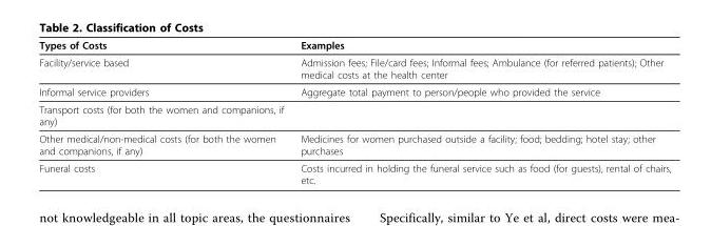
<table><thead><tr><td>Types of Costs</td><td>Examples</td></tr></thead><tbody><tr><td>Facility/service based</td><td>Admission fees; File/card fees; Informal fees; Ambulance (for referred patients); Other medical costs at the health center</td></tr><tr><td>Informal service providers</td><td>Aggregate total payment to person/people who provided the service</td></tr><tr><td colspan="2">Transport costs (for both the women and companions, if any)</td></tr><tr><td>Other medical/non-medical costs (for both the women and companions, if any)</td><td>Medicines for women purchased outside a facility; food; bedding; hotel stay; other purchases</td></tr><tr><td>Funeral costs</td><td>Costs incurred in holding the funeral service such as food (for guests), rental of chairs, etc.</td></tr></tbody></table>